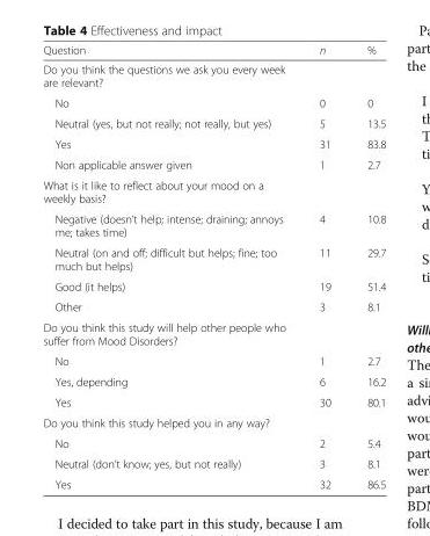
<table><thead><tr><td>Question</td><td>n</td><td>%</td></tr></thead><tbody><tr><td colspan="3">Do you think the questions we ask you every week are relevant?</td></tr><tr><td>No</td><td>0</td><td>0</td></tr><tr><td>Neutral (yes, but not really; not really, but yes)</td><td>5</td><td>13.5</td></tr><tr><td>Yes</td><td>31</td><td>83.8</td></tr><tr><td>Non applicable answer given</td><td>1</td><td>2.7</td></tr><tr><td colspan="3">What is it like to reflect about your mood on a weekly basis?</td></tr><tr><td>Negative (doesn’t help; intense; draining; annoys me; takes time)</td><td>4</td><td>10.8</td></tr><tr><td>Neutral (on and off; difficult but helps; fine; too much but helps)</td><td>11</td><td>29.7</td></tr><tr><td>Good (it helps)</td><td>19</td><td>51.4</td></tr><tr><td>Other</td><td>3</td><td>8.1</td></tr><tr><td colspan="3">Do you think this study will help other people who suffer from Mood Disorders?</td></tr><tr><td>No</td><td>1</td><td>2.7</td></tr><tr><td>Yes, depending</td><td>6</td><td>16.2</td></tr><tr><td>Yes</td><td>30</td><td>80.1</td></tr><tr><td colspan="3">Do you think this study helped you in any way?</td></tr><tr><td>No</td><td>2</td><td>5.4</td></tr><tr><td>Neutral (don’t know; yes, but not really)</td><td>3</td><td>8.1</td></tr><tr><td>Yes</td><td>32</td><td>86.5</td></tr></tbody></table>